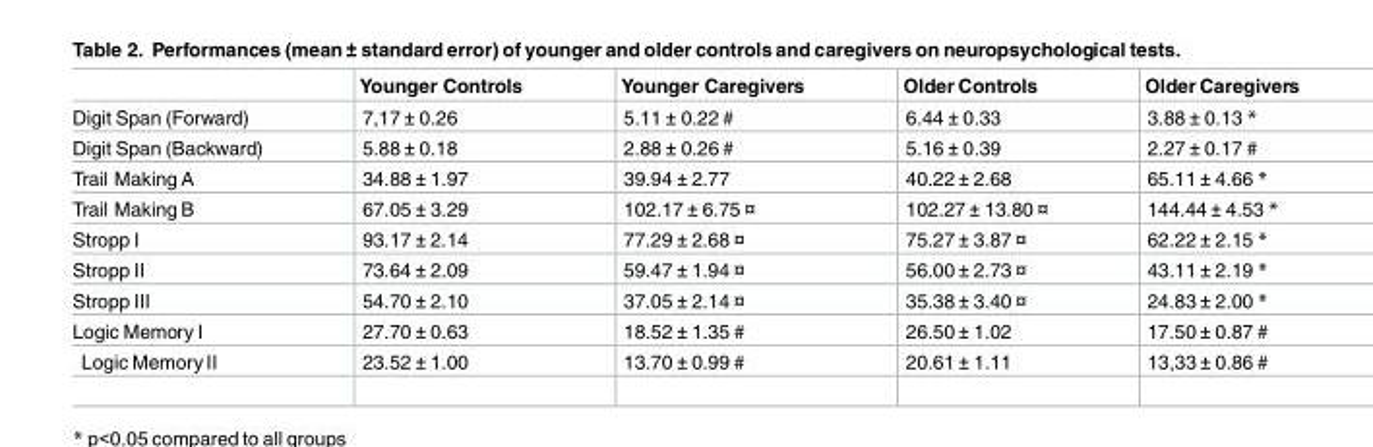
<table><thead><tr><td></td><td>Younger Controls</td><td>Younger Caregivers</td><td>Older Controls</td><td>Older Caregivers</td></tr></thead><tbody><tr><td>Digit Span (Forward)</td><td>7,17 ± 0.26</td><td>5.11 ± 0.22 #</td><td>6.44 ± 0.33</td><td>3.88 ± 0.13 *</td></tr><tr><td>Digit Span (Backward)</td><td>5.88 ± 0.18</td><td>2.88 ± 0.26 #</td><td>5.16 ± 0.39</td><td>2.27 ± 0.17 #</td></tr><tr><td>Trail Making A</td><td>34.88 ± 1.97</td><td>39.94 ± 2.77</td><td>40.22 ± 2.68</td><td>65.11 ± 4.66 *</td></tr><tr><td>Trail Making B</td><td>67.05 ± 3.29</td><td>102.17 ± 6.75 ¤</td><td>102.27 ± 13.80 ¤</td><td>144.44 ± 4.53 *</td></tr><tr><td>Stropp I</td><td>93.17 ± 2.14</td><td>77.29 ± 2.68 ¤</td><td>75.27 ± 3.87 ¤</td><td>62.22 ± 2.15 *</td></tr><tr><td>Stropp II</td><td>73.64 ± 2.09</td><td>59.47 ± 1.94 ¤</td><td>56.00 ± 2.73 ¤</td><td>43.11 ± 2.19 *</td></tr><tr><td>Stropp III</td><td>54.70 ± 2.10</td><td>37.05 ± 2.14 ¤</td><td>35.38 ± 3.40 ¤</td><td>24.83 ± 2.00 *</td></tr><tr><td>Logic Memory I</td><td>27.70 ± 0.63</td><td>18.52 ± 1.35 #</td><td>26.50 ± 1.02</td><td>17.50 ± 0.87 #</td></tr><tr><td>Logic Memory II</td><td>23.52 ± 1.00</td><td>13.70 ± 0.99 #</td><td>20.61 ± 1.11</td><td>13,33 ± 0.86 #</td></tr></tbody></table>